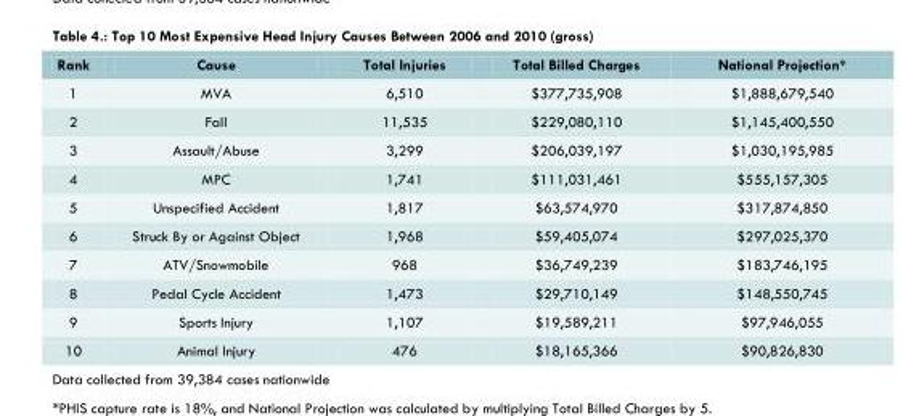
<table><thead><tr><td>Rank</td><td>Cause</td><td>Total Injuries</td><td>Total Billed Charges</td><td>National Projection*</td></tr></thead><tbody><tr><td>1</td><td>MVA</td><td>6,510</td><td>$377,735,908</td><td>$1,888,679,540</td></tr><tr><td>2</td><td>Fall</td><td>11,535</td><td>$229,080,110</td><td>$1,145,400,550</td></tr><tr><td>3</td><td>Assault/Abuse</td><td>3,299</td><td>$206,039,197</td><td>$1,030,195,985</td></tr><tr><td>4</td><td>MPC</td><td>1,741</td><td>$111,031,461</td><td>$555,157,305</td></tr><tr><td>5</td><td>Unspecified Accident</td><td>1,817</td><td>$63,574,970</td><td>$317,874,850</td></tr><tr><td>6</td><td>Struck By or Against Object</td><td>1,968</td><td>$59,405,074</td><td>$297,025,370</td></tr><tr><td>7</td><td>ATV/Snowmobile</td><td>968</td><td>$36,749,239</td><td>$183,746,195</td></tr><tr><td>8</td><td>Pedal Cycle Accident</td><td>1,473</td><td>$29,710,149</td><td>$148,550,745</td></tr><tr><td>9</td><td>Sports Injury</td><td>1,107</td><td>$19,589,211</td><td>$97,946,055</td></tr><tr><td>10</td><td>Animal Injury</td><td>476</td><td>$18,165,366</td><td>$90,826,830</td></tr></tbody></table>